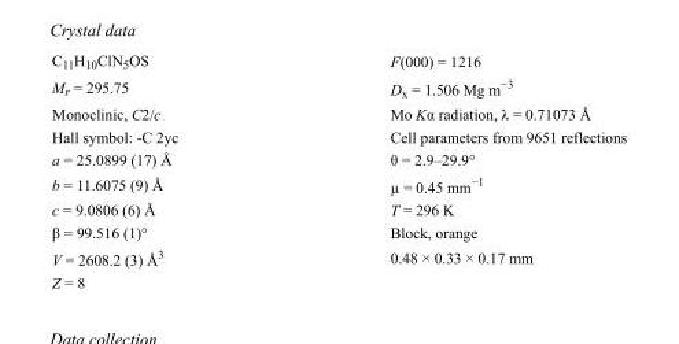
<table><tbody><tr><td>C<sub>11</sub>H<sub>10</sub>ClN<sub>5</sub>OS</td><td>F(000) = 1216</td></tr><tr><td>M<sub>r</sub> = 295.75</td><td>D<sub>x</sub> = 1.506 Mg m<sup>−3</sup></td></tr><tr><td>Monoclinic, C2/c</td><td>Mo Kα radiation, λ = 0.71073 Å</td></tr><tr><td>Hall symbol: -C 2yc</td><td>Cell parameters from 9651 reflections</td></tr><tr><td>a = 25.0899 (17) Å</td><td>θ = 2.9–29.9°</td></tr><tr><td>b = 11.6075 (9) Å</td><td>µ = 0.45 mm<sup>−1</sup></td></tr><tr><td>c = 9.0806 (6) Å</td><td>T = 296 K</td></tr><tr><td>β = 99.516 (1)°</td><td>Block, orange</td></tr><tr><td>V = 2608.2 (3) Å<sup>3</sup></td><td>0.48 × 0.33 × 0.17 mm</td></tr><tr><td>Z = 8</td><td></td></tr></tbody></table>